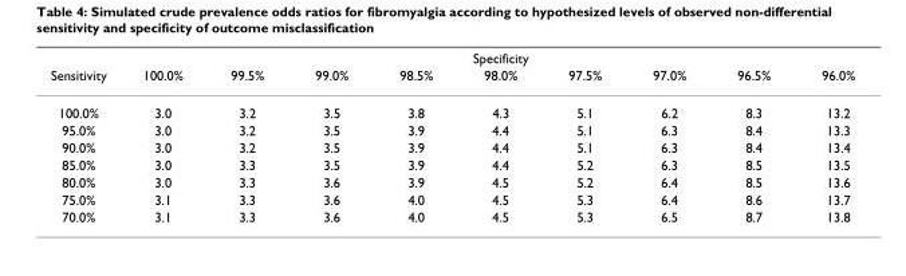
<table><thead><tr><td rowspan="2">Sensitivity</td><td colspan="9">Specificity</td></tr><tr><td>100.0%</td><td>99.5%</td><td>99.0%</td><td>98.5%</td><td>98.0%</td><td>97.5%</td><td>97.0%</td><td>96.5%</td><td>96.0%</td></tr></thead><tbody><tr><td>100.0%</td><td>3.0</td><td>3.2</td><td>3.5</td><td>3.8</td><td>4.3</td><td>5.1</td><td>6.2</td><td>8.3</td><td>13.2</td></tr><tr><td>95.0%</td><td>3.0</td><td>3.2</td><td>3.5</td><td>3.9</td><td>4.4</td><td>5.1</td><td>6.3</td><td>8.4</td><td>13.3</td></tr><tr><td>90.0%</td><td>3.0</td><td>3.2</td><td>3.5</td><td>3.9</td><td>4.4</td><td>5.1</td><td>6.3</td><td>8.4</td><td>13.4</td></tr><tr><td>85.0%</td><td>3.0</td><td>3.3</td><td>3.5</td><td>3.9</td><td>4.4</td><td>5.2</td><td>6.3</td><td>8.5</td><td>13.5</td></tr><tr><td>80.0%</td><td>3.0</td><td>3.3</td><td>3.6</td><td>3.9</td><td>4.5</td><td>5.2</td><td>6.4</td><td>8.5</td><td>13.6</td></tr><tr><td>75.0%</td><td>3.1</td><td>3.3</td><td>3.6</td><td>4.0</td><td>4.5</td><td>5.3</td><td>6.4</td><td>8.6</td><td>13.7</td></tr><tr><td>70.0%</td><td>3.1</td><td>3.3</td><td>3.6</td><td>4.0</td><td>4.5</td><td>5.3</td><td>6.5</td><td>8.7</td><td>13.8</td></tr></tbody></table>